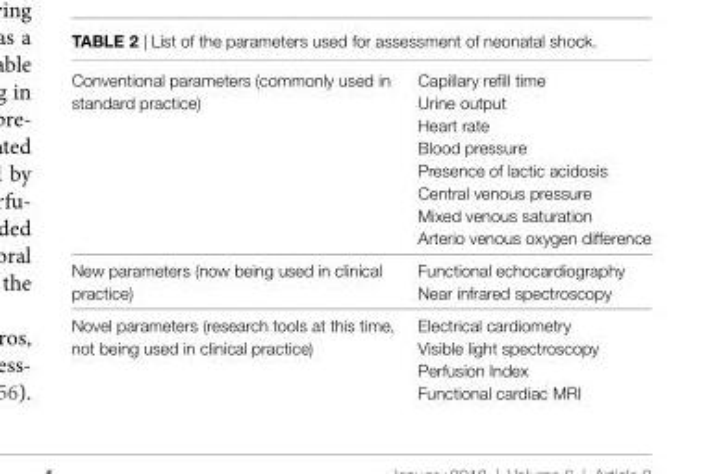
<table><tbody><tr><td>Conventional parameters (commonly used in standard practice)</td><td>Capillary refill time Urine output Heart rate Blood pressure Presence of lactic acidosis Central venous pressure Mixed venous saturation Arterio venous oxygen difference</td></tr><tr><td>New parameters (now being used in clinical practice)</td><td>Functional echocardiography Near infrared spectroscopy</td></tr><tr><td>Novel parameters (research tools at this time, not being used in clinical practice)</td><td>Electrical cardiometry Visible light spectroscopy Perfusion Index Functional cardiac MRI</td></tr></tbody></table>